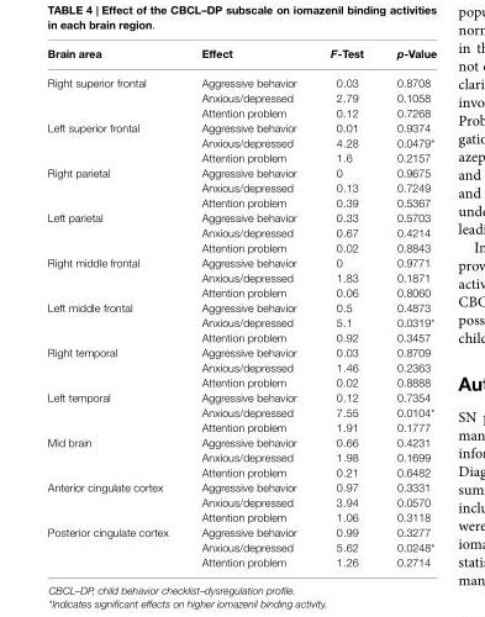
<table><thead><tr><td>Brain area</td><td>Effect</td><td>F-Test</td><td>p-Value</td></tr></thead><tbody><tr><td rowspan="3">Right superior frontal</td><td>Aggressive behavior</td><td>0.03</td><td>0.8708</td></tr><tr><td>Anxious/depressed</td><td>2.79</td><td>0.1058</td></tr><tr><td>Attention problem</td><td>0.12</td><td>0.7268</td></tr><tr><td rowspan="3">Left superior frontal</td><td>Aggressive behavior</td><td>0.01</td><td>0.9374</td></tr><tr><td>Anxious/depressed</td><td>4.28</td><td>0.0479*</td></tr><tr><td>Attention problem</td><td>1.6</td><td>0.2157</td></tr><tr><td rowspan="3">Right parietal</td><td>Aggressive behavior</td><td>0</td><td>0.9675</td></tr><tr><td>Anxious/depressed</td><td>0.13</td><td>0.7249</td></tr><tr><td>Attention problem</td><td>0.39</td><td>0.5367</td></tr><tr><td rowspan="3">Left parietal</td><td>Aggressive behavior</td><td>0.33</td><td>0.5703</td></tr><tr><td>Anxious/depressed</td><td>0.67</td><td>0.4214</td></tr><tr><td>Attention problem</td><td>0.02</td><td>0.8843</td></tr><tr><td rowspan="3">Right middle frontal</td><td>Aggressive behavior</td><td>0</td><td>0.9771</td></tr><tr><td>Anxious/depressed</td><td>1.83</td><td>0.1871</td></tr><tr><td>Attention problem</td><td>0.06</td><td>0.8060</td></tr><tr><td rowspan="3">Left middle frontal</td><td>Aggressive behavior</td><td>0.5</td><td>0.4873</td></tr><tr><td>Anxious/depressed</td><td>5.1</td><td>0.0319*</td></tr><tr><td>Attention problem</td><td>0.92</td><td>0.3457</td></tr><tr><td rowspan="3">Right temporal</td><td>Aggressive behavior</td><td>0.03</td><td>0.8709</td></tr><tr><td>Anxious/depressed</td><td>1.46</td><td>0.2363</td></tr><tr><td>Attention problem</td><td>0.02</td><td>0.8888</td></tr><tr><td rowspan="3">Left temporal</td><td>Aggressive behavior</td><td>0.12</td><td>0.7354</td></tr><tr><td>Anxious/depressed</td><td>7.55</td><td>0.0104*</td></tr><tr><td>Attention problem</td><td>1.91</td><td>0.1777</td></tr><tr><td rowspan="3">Mid brain</td><td>Aggressive behavior</td><td>0.66</td><td>0.4231</td></tr><tr><td>Anxious/depressed</td><td>1.98</td><td>0.1699</td></tr><tr><td>Attention problem</td><td>0.21</td><td>0.6482</td></tr><tr><td rowspan="3">Anterior cingulate cortex</td><td>Aggressive behavior</td><td>0.97</td><td>0.3331</td></tr><tr><td>Anxious/depressed</td><td>3.94</td><td>0.0570</td></tr><tr><td>Attention problem</td><td>1.06</td><td>0.3118</td></tr><tr><td rowspan="3">Posterior cingulate cortex</td><td>Aggressive behavior</td><td>0.99</td><td>0.3277</td></tr><tr><td>Anxious/depressed</td><td>5.62</td><td>0.0248*</td></tr><tr><td>Attention problem</td><td>1.26</td><td>0.2714</td></tr></tbody></table>